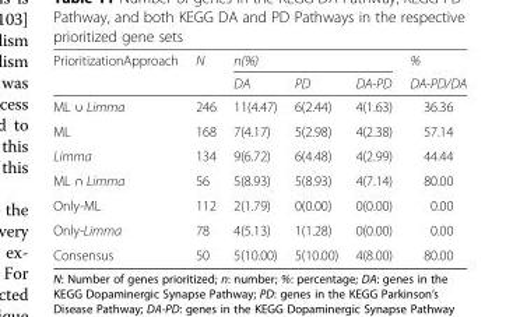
<table><thead><tr><td rowspan="2">PrioritizationApproach</td><td rowspan="2">N</td><td colspan="3">n(%)</td><td rowspan="2">% DA-PD/DA</td></tr><tr><td>DA</td><td>PD</td><td>DA-PD</td></tr></thead><tbody><tr><td>ML ∪ Limma</td><td>246</td><td>11(4.47)</td><td>6(2.44)</td><td>4(1.63)</td><td>36.36</td></tr><tr><td>ML</td><td>168</td><td>7(4.17)</td><td>5(2.98)</td><td>4(2.38)</td><td>57.14</td></tr><tr><td>Limma</td><td>134</td><td>9(6.72)</td><td>6(4.48)</td><td>4(2.99)</td><td>44.44</td></tr><tr><td>ML ∩ Limma</td><td>56</td><td>5(8.93)</td><td>5(8.93)</td><td>4(7.14)</td><td>80.00</td></tr><tr><td>Only-ML</td><td>112</td><td>2(1.79)</td><td>0(0.00)</td><td>0(0.00)</td><td>0.00</td></tr><tr><td>Only-Limma</td><td>78</td><td>4(5.13)</td><td>1(1.28)</td><td>0(0.00)</td><td>0.00</td></tr><tr><td>Consensus</td><td>50</td><td>5(10.00)</td><td>5(10.00)</td><td>4(8.00)</td><td>80.00</td></tr></tbody></table>